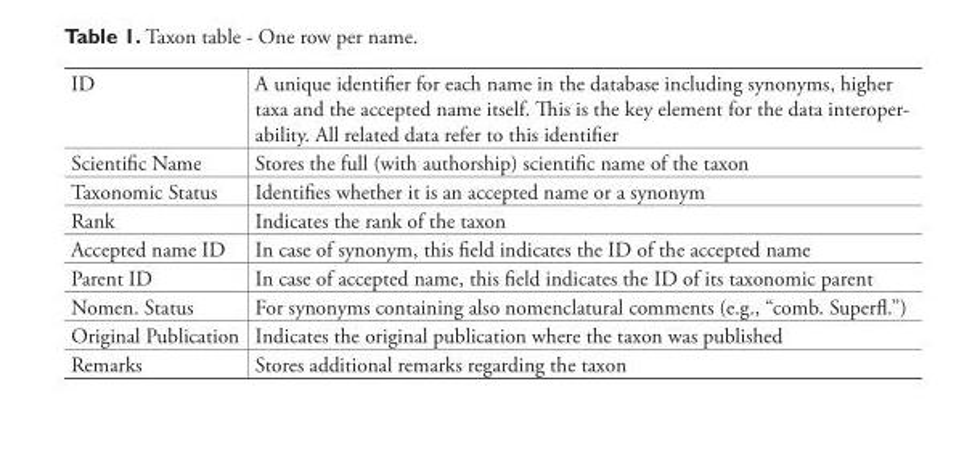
<table><tbody><tr><td>ID</td><td>A unique identifi er for each name in the database including synonyms, higher taxa and the accepted name itself. Th is is the key element for the data interoper- ability. All related data refer to this identifi er</td></tr><tr><td>Scientifi c Name</td><td>Stores the full (with authorship) scientifi c name of the taxon</td></tr><tr><td>Taxonomic Status</td><td>Identifi es whether it is an accepted name or a synonym</td></tr><tr><td>Rank</td><td>Indicates the rank of the taxon</td></tr><tr><td>Accepted name ID</td><td>In case of synonym, this fi eld indicates the ID of the accepted name</td></tr><tr><td>Parent ID</td><td>In case of accepted name, this fi eld indicates the ID of its taxonomic parent</td></tr><tr><td>Nomen. Status</td><td>For synonyms containing also nomenclatural comments (e.g., “comb. Superfl .”)</td></tr><tr><td>Original Publication</td><td>Indicates the original publication where the taxon was published</td></tr><tr><td>Remarks</td><td>Stores additional remarks regarding the taxon</td></tr></tbody></table>